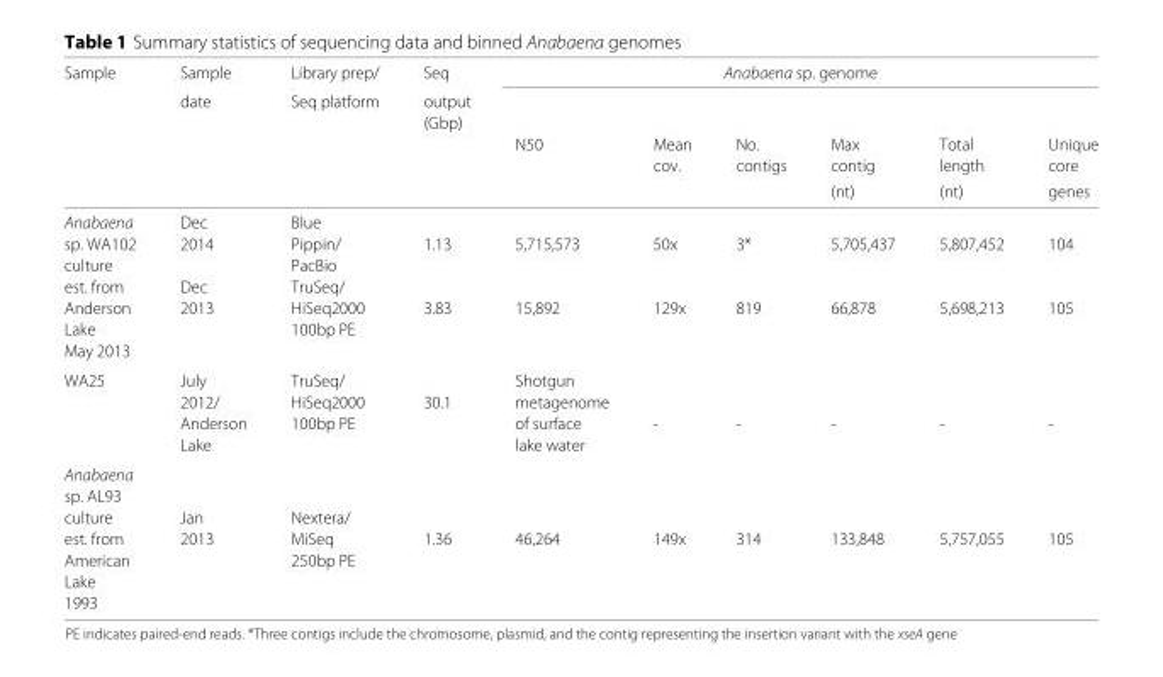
<table><thead><tr><td rowspan="4">Sample</td><td rowspan="4">Sample date</td><td rowspan="4">Library prep/ Seq platform</td><td rowspan="4">Seq output (Gbp)</td><td rowspan="3" colspan="6">Anabaena sp. genome</td></tr><tr></tr><tr></tr><tr><td>N50</td><td>Mean</td><td>No.</td><td>Max</td><td>Total</td><td>Unique</td></tr></thead><tbody><tr><td></td><td></td><td></td><td></td><td></td><td>cov.</td><td>contigs</td><td>contig</td><td>length</td><td>core</td></tr><tr><td></td><td></td><td></td><td></td><td></td><td></td><td></td><td>(nt)</td><td>(nt)</td><td>genes</td></tr><tr><td>Anabaena</td><td>Dec</td><td>Blue</td><td colspan="7"></td></tr><tr><td>sp. WA102</td><td>2014</td><td>Pippin/</td><td>1.13</td><td>5,715,573</td><td>50x</td><td>3*</td><td>5,705,437</td><td>5,807,452</td><td>104</td></tr><tr><td>culture</td><td></td><td>PacBio</td><td colspan="7"></td></tr><tr><td>est. from</td><td>Dec</td><td>TruSeq/</td><td colspan="7"></td></tr><tr><td>Anderson</td><td>2013</td><td>HiSeq2000</td><td>3.83</td><td>15,892</td><td>129x</td><td>819</td><td>66,878</td><td>5,698,213</td><td>105</td></tr><tr><td>Lake</td><td></td><td>100bp PE</td><td colspan="7"></td></tr><tr><td colspan="10">May 2013</td></tr><tr><td rowspan="4">WA25</td><td>July</td><td>TruSeq/</td><td></td><td>Shotgun</td><td></td><td></td><td colspan="3"></td></tr><tr><td>2012/</td><td>HiSeq2000</td><td>30.1</td><td>metagenome</td><td colspan="5"></td></tr><tr><td>Anderson</td><td>100bp PE</td><td></td><td>of surface</td><td>-</td><td>-</td><td>-</td><td>-</td><td>-</td></tr><tr><td>Lake</td><td></td><td></td><td>lake water</td><td></td><td></td><td></td><td></td><td></td></tr><tr><td colspan="10">Anabaena</td></tr><tr><td colspan="10">sp. AL93</td></tr><tr><td>culture</td><td>Jan</td><td>Nextera/</td><td colspan="7"></td></tr><tr><td>est. from</td><td>2013</td><td>MiSeq</td><td>1.36</td><td>46,264</td><td>149x</td><td>314</td><td>133,848</td><td>5,757,055</td><td>105</td></tr><tr><td>American</td><td></td><td>250bp PE</td><td colspan="7"></td></tr><tr><td colspan="10">Lake</td></tr><tr><td>1993</td><td></td><td></td><td></td><td colspan="6"></td></tr></tbody></table>